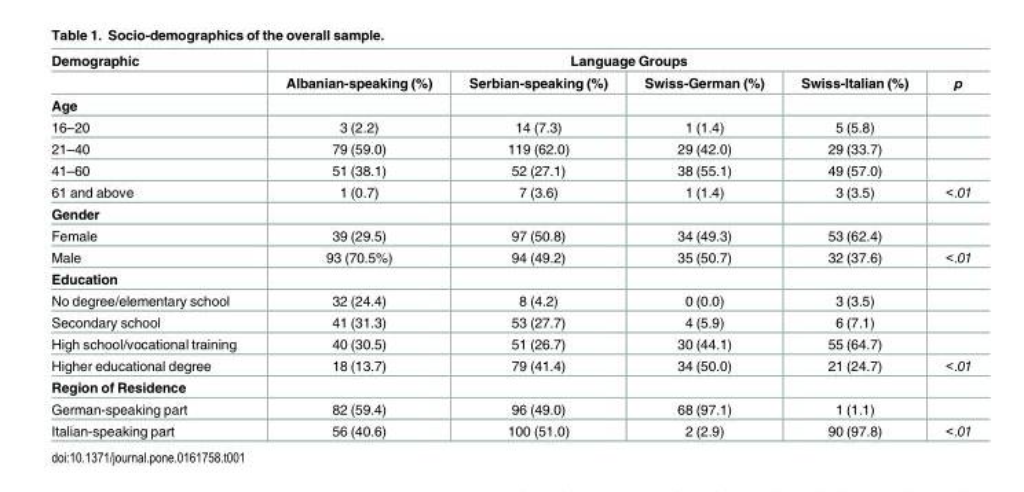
<table><thead><tr><td rowspan="2">Demographic</td><td colspan="5">Language Groups</td></tr><tr><td>Albanian-speaking (%)</td><td>Serbian-speaking (%)</td><td>Swiss-German (%)</td><td>Swiss-Italian (%)</td><td>p</td></tr></thead><tbody><tr><td colspan="6">Age</td></tr><tr><td>16–20</td><td>3 (2.2)</td><td>14 (7.3)</td><td>1 (1.4)</td><td>5 (5.8)</td><td></td></tr><tr><td>21–40</td><td>79 (59.0)</td><td>119 (62.0)</td><td>29 (42.0)</td><td>29 (33.7)</td><td></td></tr><tr><td>41–60</td><td>51 (38.1)</td><td>52 (27.1)</td><td>38 (55.1)</td><td>49 (57.0)</td><td></td></tr><tr><td>61 and above</td><td>1 (0.7)</td><td>7 (3.6)</td><td>1 (1.4)</td><td>3 (3.5)</td><td>&lt;.01</td></tr><tr><td colspan="6">Gender</td></tr><tr><td>Female</td><td>39 (29.5)</td><td>97 (50.8)</td><td>34 (49.3)</td><td>53 (62.4)</td><td></td></tr><tr><td>Male</td><td>93 (70.5%)</td><td>94 (49.2)</td><td>35 (50.7)</td><td>32 (37.6)</td><td>&lt;.01</td></tr><tr><td colspan="6">Education</td></tr><tr><td>No degree/elementary school</td><td>32 (24.4)</td><td>8 (4.2)</td><td>0 (0.0)</td><td>3 (3.5)</td><td></td></tr><tr><td>Secondary school</td><td>41 (31.3)</td><td>53 (27.7)</td><td>4 (5.9)</td><td>6 (7.1)</td><td></td></tr><tr><td>High school/vocational training</td><td>40 (30.5)</td><td>51 (26.7)</td><td>30 (44.1)</td><td>55 (64.7)</td><td></td></tr><tr><td>Higher educational degree</td><td>18 (13.7)</td><td>79 (41.4)</td><td>34 (50.0)</td><td>21 (24.7)</td><td>&lt;.01</td></tr><tr><td colspan="6">Region of Residence</td></tr><tr><td>German-speaking part</td><td>82 (59.4)</td><td>96 (49.0)</td><td>68 (97.1)</td><td>1 (1.1)</td><td></td></tr><tr><td>Italian-speaking part</td><td>56 (40.6)</td><td>100 (51.0)</td><td>2 (2.9)</td><td>90 (97.8)</td><td>&lt;.01</td></tr></tbody></table>